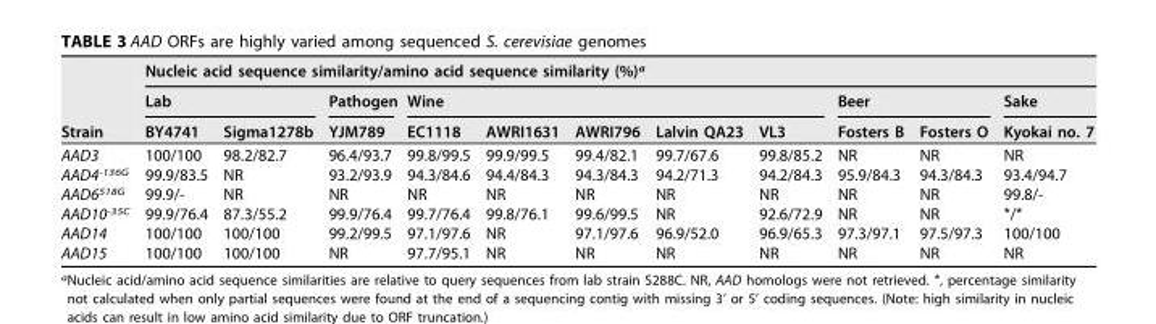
<table><thead><tr><td rowspan="3">Strain</td><td colspan="11">Nucleic acid sequence similarity/amino acid sequence similarity (%)<sup>a</sup></td></tr><tr><td colspan="2">Lab</td><td rowspan="2">Pathogen YJM789</td><td colspan="5">Wine</td><td colspan="2">Beer</td><td rowspan="2">Sake Kyokai no. 7</td></tr><tr><td>BY4741</td><td>Sigma1278b</td><td>EC1118</td><td>AWRI1631</td><td>AWRI796</td><td>Lalvin QA23</td><td>VL3</td><td>Fosters B</td><td>Fosters O</td></tr></thead><tbody><tr><td>AAD3</td><td>100/100</td><td>98.2/82.7</td><td>96.4/93.7</td><td>99.8/99.5</td><td>99.9/99.5</td><td>99.4/82.1</td><td>99.7/67.6</td><td>99.8/85.2</td><td>NR</td><td>NR</td><td>NR</td></tr><tr><td>AAD4<sup>-136G</sup></td><td>99.9/83.5</td><td>NR</td><td>93.2/93.9</td><td>94.3/84.6</td><td>94.4/84.3</td><td>94.3/84.3</td><td>94.2/71.3</td><td>94.2/84.3</td><td>95.9/84.3</td><td>94.3/84.3</td><td>93.4/94.7</td></tr><tr><td>AAD6<sup>518G</sup></td><td>99.9/-</td><td>NR</td><td>NR</td><td>NR</td><td>NR</td><td>NR</td><td>NR</td><td>NR</td><td>NR</td><td>NR</td><td>99.8/-</td></tr><tr><td>AAD10<sup>-35C</sup></td><td>99.9/76.4</td><td>87.3/55.2</td><td>99.9/76.4</td><td>99.7/76.4</td><td>99.8/76.1</td><td>99.6/99.5</td><td>NR</td><td>92.6/72.9</td><td>NR</td><td>NR</td><td>*/*</td></tr><tr><td>AAD14</td><td>100/100</td><td>100/100</td><td>99.2/99.5</td><td>97.1/97.6</td><td>NR</td><td>97.1/97.6</td><td>96.9/52.0</td><td>96.9/65.3</td><td>97.3/97.1</td><td>97.5/97.3</td><td>100/100</td></tr><tr><td>AAD15</td><td>100/100</td><td>100/100</td><td>NR</td><td>97.7/95.1</td><td>NR</td><td>NR</td><td>NR</td><td>NR</td><td>NR</td><td>NR</td><td>NR</td></tr></tbody></table>